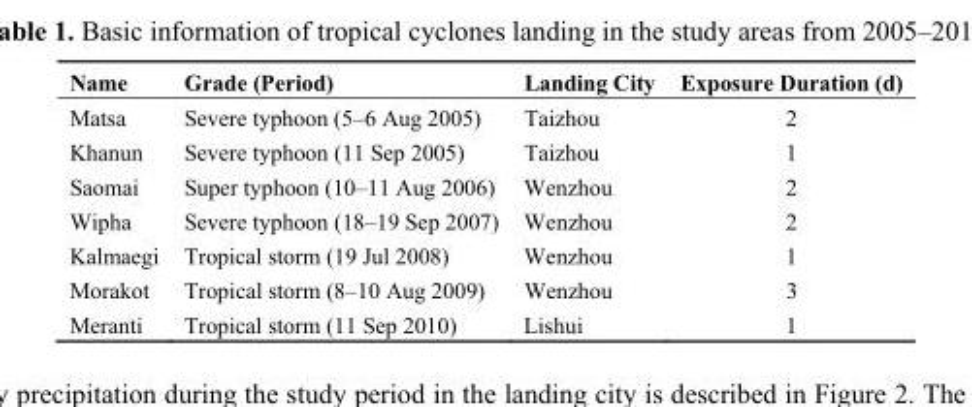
<table><thead><tr><td>Name</td><td>Grade (Period)</td><td>Landing City</td><td>Exposure Duration (d)</td></tr></thead><tbody><tr><td>Matsa</td><td>Severe typhoon (5–6 Aug 2005)</td><td>Taizhou</td><td>2</td></tr><tr><td>Khanun</td><td>Severe typhoon (11 Sep 2005)</td><td>Taizhou</td><td>1</td></tr><tr><td>Saomai</td><td>Super typhoon (10–11 Aug 2006)</td><td>Wenzhou</td><td>2</td></tr><tr><td>Wipha</td><td>Severe typhoon (18–19 Sep 2007)</td><td>Wenzhou</td><td>2</td></tr><tr><td>Kalmaegi</td><td>Tropical storm (19 Jul 2008)</td><td>Wenzhou</td><td>1</td></tr><tr><td>Morakot</td><td>Tropical storm (8–10 Aug 2009)</td><td>Wenzhou</td><td>3</td></tr><tr><td>Meranti</td><td>Tropical storm (11 Sep 2010)</td><td>Lishui</td><td>1</td></tr></tbody></table>